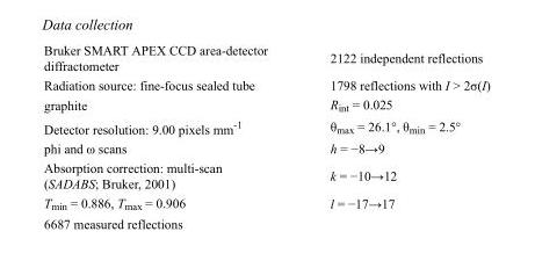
<table><tbody><tr><td>Bruker SMART APEX CCD area-detector diffractometer</td><td>2122 independent reflections</td></tr><tr><td>Radiation source: fine-focus sealed tube</td><td>1798 reflections with I &gt; 2σ(I)</td></tr><tr><td>graphite</td><td>R<sub>int</sub> = 0.025</td></tr><tr><td>Detector resolution: 9.00 pixels mm<sup>-1</sup></td><td>θ<sub>max</sub> = 26.1°, θ<sub>min</sub> = 2.5°</td></tr><tr><td>phi and ω scans</td><td>h = −8→9</td></tr><tr><td>Absorption correction: multi-scan (SADABS; Bruker, 2001)</td><td>k = −10→12</td></tr><tr><td>T<sub>min</sub> = 0.886, T<sub>max</sub> = 0.906</td><td>l = −17→17</td></tr><tr><td>6687 measured reflections</td><td></td></tr></tbody></table>